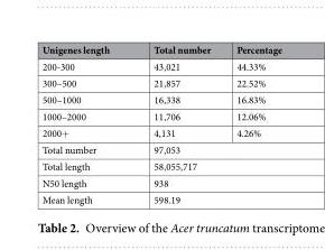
<table><thead><tr><td>Unigenes length</td><td>Total number</td><td>Percentage</td></tr></thead><tbody><tr><td>200-300</td><td>43,021</td><td>44.33%</td></tr><tr><td>300–500</td><td>21,857</td><td>22.52%</td></tr><tr><td>500–1000</td><td>16,338</td><td>16.83%</td></tr><tr><td>1000–2000</td><td>11,706</td><td>12.06%</td></tr><tr><td>2000+</td><td>4,131</td><td>4.26%</td></tr><tr><td>Total number</td><td colspan="2">97,053</td></tr><tr><td>Total length</td><td colspan="2">58,055,717</td></tr><tr><td>N50 length</td><td colspan="2">938</td></tr><tr><td>Mean length</td><td colspan="2">598.19</td></tr></tbody></table>